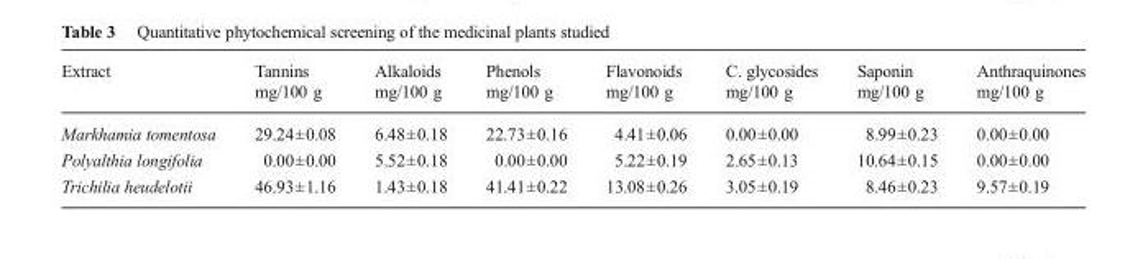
<table><thead><tr><td>Extract</td><td>Tannins mg/100 g</td><td>Alkaloids mg/100 g</td><td>Phenols mg/100 g</td><td>Flavonoids mg/100 g</td><td>C. glycosides mg/100 g</td><td>Saponin mg/100 g</td><td>Anthraquinones mg/100 g</td></tr></thead><tbody><tr><td>Markhamia tomentosa</td><td>29.24±0.08</td><td>6.48±0.18</td><td>22.73±0.16</td><td>4.41±0.06</td><td>0.00±0.00</td><td>8.99±0.23</td><td>0.00±0.00</td></tr><tr><td>Polyalthia longifolia</td><td>0.00±0.00</td><td>5.52±0.18</td><td>0.00±0.00</td><td>5.22±0.19</td><td>2.65±0.13</td><td>10.64±0.15</td><td>0.00±0.00</td></tr><tr><td>Trichilia heudelotii</td><td>46.93±1.16</td><td>1.43±0.18</td><td>41.41±0.22</td><td>13.08±0.26</td><td>3.05±0.19</td><td>8.46±0.23</td><td>9.57±0.19</td></tr></tbody></table>